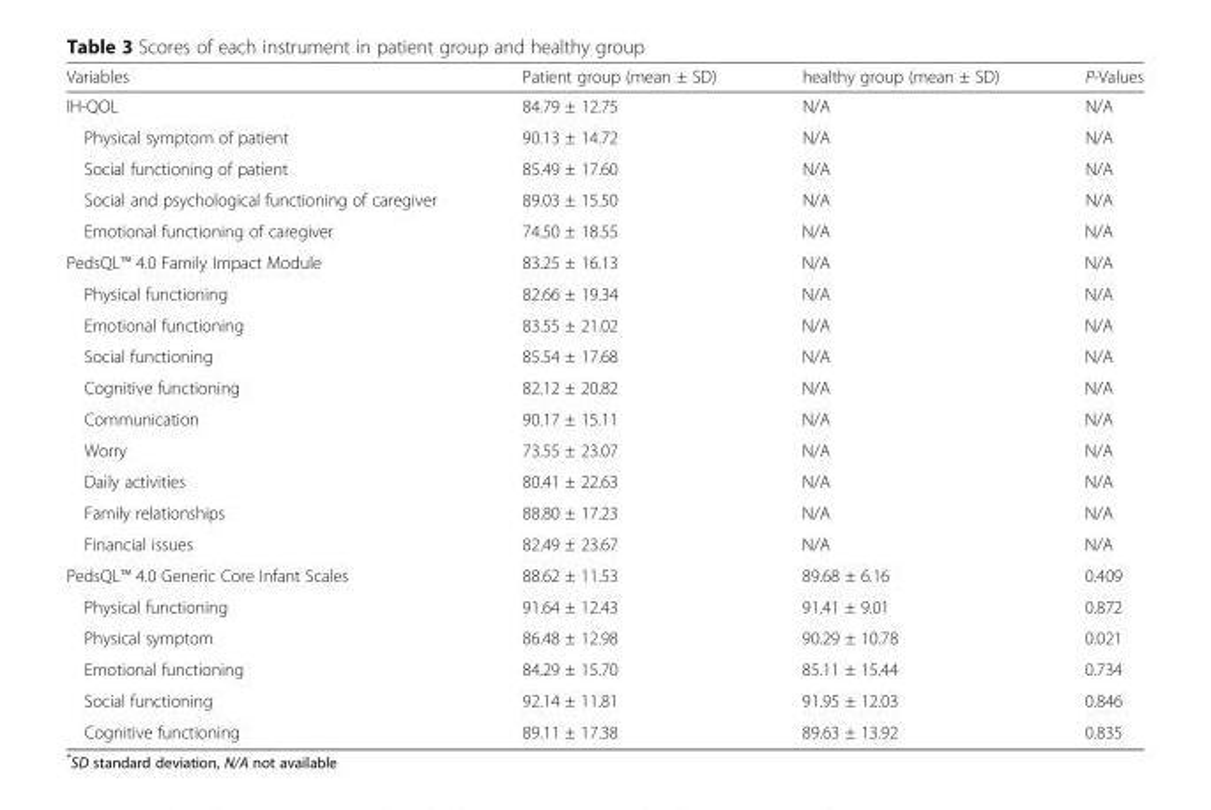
<table><thead><tr><td>Variables</td><td>Patient group (mean ± SD)</td><td>healthy group (mean ± SD)</td><td>P-Values</td></tr></thead><tbody><tr><td>IH-QOL</td><td>84.79 ± 12.75</td><td>N/A</td><td>N/A</td></tr><tr><td>Physical symptom of patient</td><td>90.13 ± 14.72</td><td>N/A</td><td>N/A</td></tr><tr><td>Social functioning of patient</td><td>85.49 ± 17.60</td><td>N/A</td><td>N/A</td></tr><tr><td>Social and psychological functioning of caregiver</td><td>89.03 ± 15.50</td><td>N/A</td><td>N/A</td></tr><tr><td>Emotional functioning of caregiver</td><td>74.50 ± 18.55</td><td>N/A</td><td>N/A</td></tr><tr><td>PedsQL™ 4.0 Family Impact Module</td><td>83.25 ± 16.13</td><td>N/A</td><td>N/A</td></tr><tr><td>Physical functioning</td><td>82.66 ± 19.34</td><td>N/A</td><td>N/A</td></tr><tr><td>Emotional functioning</td><td>83.55 ± 21.02</td><td>N/A</td><td>N/A</td></tr><tr><td>Social functioning</td><td>85.54 ± 17.68</td><td>N/A</td><td>N/A</td></tr><tr><td>Cognitive functioning</td><td>82.12 ± 20.82</td><td>N/A</td><td>N/A</td></tr><tr><td>Communication</td><td>90.17 ± 15.11</td><td>N/A</td><td>N/A</td></tr><tr><td>Worry</td><td>73.55 ± 23.07</td><td>N/A</td><td>N/A</td></tr><tr><td>Daily activities</td><td>80.41 ± 22.63</td><td>N/A</td><td>N/A</td></tr><tr><td>Family relationships</td><td>88.80 ± 17.23</td><td>N/A</td><td>N/A</td></tr><tr><td>Financial issues</td><td>82.49 ± 23.67</td><td>N/A</td><td>N/A</td></tr><tr><td>PedsQL™ 4.0 Generic Core Infant Scales</td><td>88.62 ± 11.53</td><td>89.68 ± 6.16</td><td>0.409</td></tr><tr><td>Physical functioning</td><td>91.64 ± 12.43</td><td>91.41 ± 9.01</td><td>0.872</td></tr><tr><td>Physical symptom</td><td>86.48 ± 12.98</td><td>90.29 ± 10.78</td><td>0.021</td></tr><tr><td>Emotional functioning</td><td>84.29 ± 15.70</td><td>85.11 ± 15.44</td><td>0.734</td></tr><tr><td>Social functioning</td><td>92.14 ± 11.81</td><td>91.95 ± 12.03</td><td>0.846</td></tr><tr><td>Cognitive functioning</td><td>89.11 ± 17.38</td><td>89.63 ± 13.92</td><td>0.835</td></tr></tbody></table>